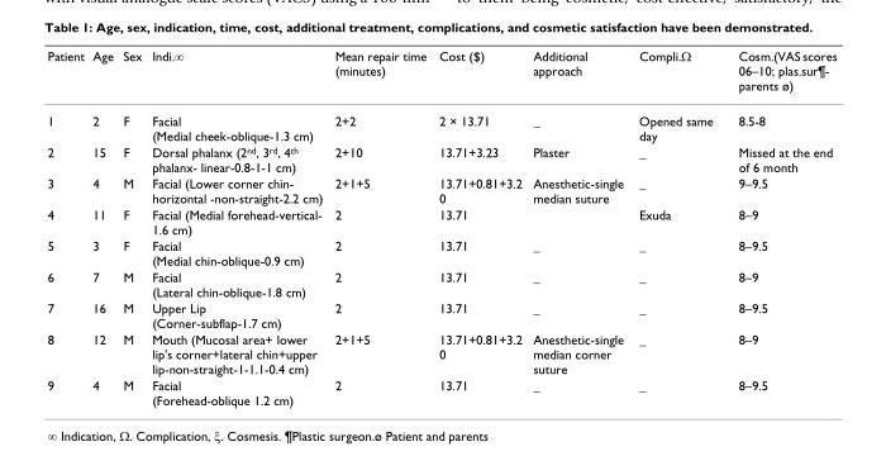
<table><thead><tr><td>Patient</td><td>Age</td><td>Sex</td><td>Indi.∞</td><td>Mean repair time (minutes)</td><td>Cost ($)</td><td>Additional approach</td><td>Compli.Ω</td><td>Cosm.(VAS scores 06–10; plas.sur¶- parents ø)</td></tr></thead><tbody><tr><td>1</td><td>2</td><td>F</td><td>Facial (Medial cheek-oblique-1.3 cm)</td><td>2+2</td><td>2 × 13.71</td><td>_</td><td>Opened same day</td><td>8.5-8</td></tr><tr><td>2</td><td>15</td><td>F</td><td>Dorsal phalanx (2<sup>nd</sup>, 3<sup>rd</sup>, 4<sup>th</sup> phalanx- linear-0.8-1-1 cm)</td><td>2+10</td><td>13.71+3.23</td><td>Plaster</td><td>_</td><td>Missed at the end of 6 month</td></tr><tr><td>3</td><td>4</td><td>M</td><td>Facial (Lower corner chin- horizontal -non-straight-2.2 cm)</td><td>2+1+5</td><td>13.71+0.81+3.2 0</td><td>Anesthetic-single median suture</td><td>_</td><td>9–9.5</td></tr><tr><td>4</td><td>11</td><td>F</td><td>Facial (Medial forehead-vertical- 1.6 cm)</td><td>2</td><td>13.71</td><td></td><td>Exuda</td><td>8–9</td></tr><tr><td>5</td><td>3</td><td>F</td><td>Facial (Medial chin-oblique-0.9 cm)</td><td>2</td><td>13.71</td><td>_</td><td>_</td><td>8–9.5</td></tr><tr><td>6</td><td>7</td><td>M</td><td>Facial (Lateral chin-oblique-1.8 cm)</td><td>2</td><td>13.71</td><td>_</td><td>_</td><td>8–9</td></tr><tr><td>7</td><td>16</td><td>M</td><td>Upper Lip (Corner-subflap-1.7 cm)</td><td>2</td><td>13.71</td><td>_</td><td>_</td><td>8–9.5</td></tr><tr><td>8</td><td>12</td><td>M</td><td>Mouth (Mucosal area+ lower lip&#x27;s corner+lateral chin+upper lip-non-straight-1-1.1-0.4 cm)</td><td>2+1+5</td><td>13.71+0.81+3.2 0</td><td>Anesthetic-single median corner suture</td><td>_</td><td>8–9</td></tr><tr><td>9</td><td>4</td><td>M</td><td>Facial (Forehead-oblique 1.2 cm)</td><td>2</td><td>13.71</td><td>_</td><td>_</td><td>8–9.5</td></tr></tbody></table>